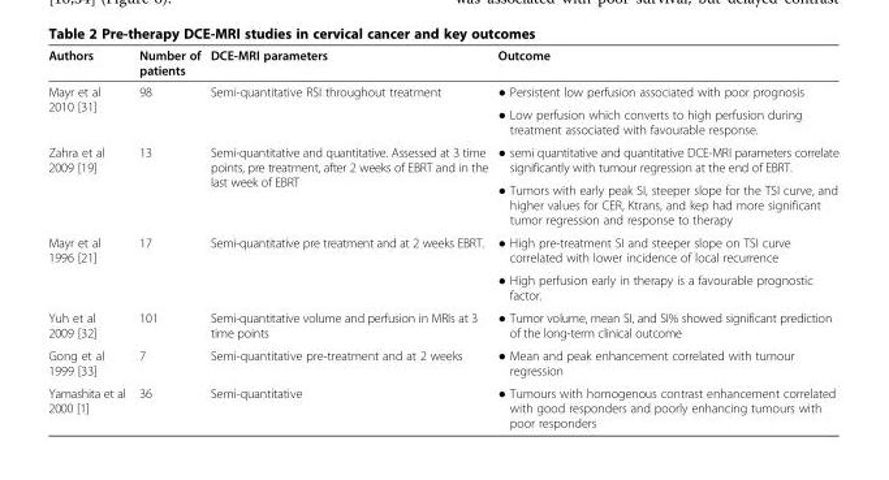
<table><thead><tr><td>Authors</td><td>Number of patients</td><td>DCE-MRI parameters</td><td>Outcome</td></tr></thead><tbody><tr><td rowspan="2">Mayr et al 2010 [31]</td><td rowspan="2">98</td><td rowspan="2">Semi-quantitative RSI throughout treatment</td><td>● Persistent low perfusion associated with poor prognosis</td></tr><tr><td>● Low perfusion which converts to high perfusion during treatment associated with favourable response.</td></tr><tr><td rowspan="2">Zahra et al 2009 [19]</td><td rowspan="2">13</td><td rowspan="2">Semi-quantitative and quantitative. Assessed at 3 time points, pre treatment, after 2 weeks of EBRT and in the last week of EBRT</td><td>● semi quantitative and quantitative DCE-MRI parameters correlate significantly with tumour regression at the end of EBRT.</td></tr><tr><td>● Tumors with early peak SI, steeper slope for the TSI curve, and higher values for CER, Ktrans, and kep had more significant tumor regression and response to therapy</td></tr><tr><td rowspan="2">Mayr et al 1996 [21]</td><td rowspan="2">17</td><td rowspan="2">Semi-quantitative pre treatment and at 2 weeks EBRT.</td><td>● High pre-treatment SI and steeper slope on TSI curve correlated with lower incidence of local recurrence</td></tr><tr><td>● High perfusion early in therapy is a favourable prognostic factor.</td></tr><tr><td>Yuh et al 2009 [32]</td><td>101</td><td>Semi-quantitative volume and perfusion in MRIs at 3 time points</td><td>● Tumor volume, mean SI, and SI% showed significant prediction of the long-term clinical outcome</td></tr><tr><td>Gong et al 1999 [33]</td><td>7</td><td>Semi-quantitative pre-treatment and at 2 weeks</td><td>● Mean and peak enhancement correlated with tumour regression</td></tr><tr><td>Yamashita et al 2000 [1]</td><td>36</td><td>Semi-quantitative</td><td>● Tumours with homogenous contrast enhancement correlated with good responders and poorly enhancing tumours with poor responders</td></tr></tbody></table>